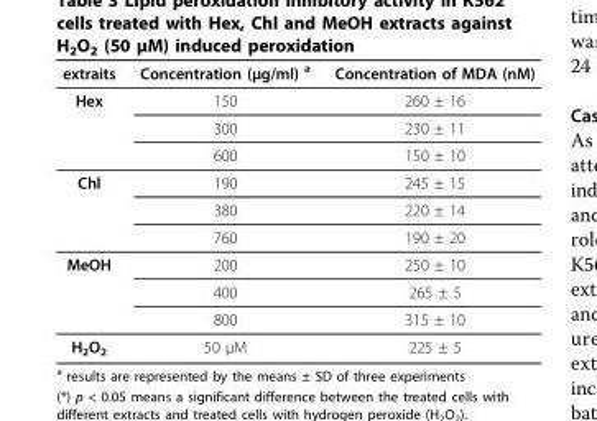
<table><thead><tr><td>extraits</td><td>Concentration (μg/ml) <sup>a</sup></td><td>Concentration of MDA (nM)</td></tr></thead><tbody><tr><td rowspan="3">Hex</td><td>150</td><td>260 ± 16</td></tr><tr><td>300</td><td>230 ± 11</td></tr><tr><td>600</td><td>150 ± 10</td></tr><tr><td rowspan="3">Chl</td><td>190</td><td>245 ± 15</td></tr><tr><td>380</td><td>220 ± 14</td></tr><tr><td>760</td><td>190 ± 20</td></tr><tr><td rowspan="3">MeOH</td><td>200</td><td>250 ± 10</td></tr><tr><td>400</td><td>265 ± 5</td></tr><tr><td>800</td><td>315 ± 10</td></tr><tr><td>H<sub>2</sub>O<sub>2</sub></td><td>50 μM</td><td>225 ± 5</td></tr></tbody></table>